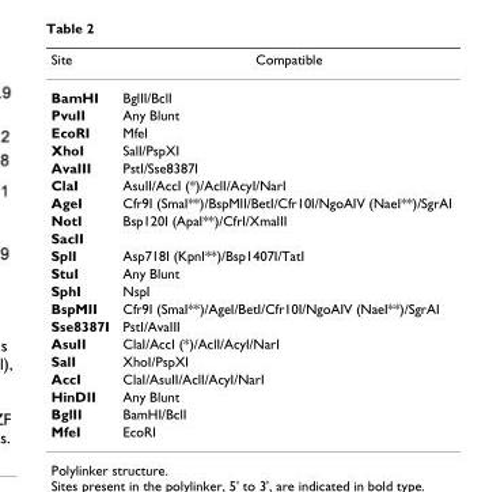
<table><thead><tr><td>Site</td><td>Compatible</td></tr></thead><tbody><tr><td>BamHI</td><td>BglII/BclI</td></tr><tr><td>PvuII</td><td>Any Blunt</td></tr><tr><td>EcoRI</td><td>MfeI</td></tr><tr><td>XhoI</td><td>SalI/PspXI</td></tr><tr><td>AvaIII</td><td>PstI/Sse8387I</td></tr><tr><td>ClaI</td><td>AsuII/AccI (*)/AclI/AcyI/NarI</td></tr><tr><td>AgeI</td><td>Cfr9I (SmaI**)/BspMII/BetI/Cfr10I/NgoAIV (NaeI**)/SgrAI</td></tr><tr><td>NotI</td><td>Bsp120I (ApaI**)/CfrI/XmaIII</td></tr><tr><td colspan="2">SacII</td></tr><tr><td>SplI</td><td>Asp718I (KpnI**)/Bsp1407I/TatI</td></tr><tr><td>StuI</td><td>Any Blunt</td></tr><tr><td>SphI</td><td>NspI</td></tr><tr><td>BspMII</td><td>Cfr9I (SmaI**)/AgeI/BetI/Cfr10I/NgoAIV (NaeI**)/SgrAI</td></tr><tr><td>Sse8387I</td><td>PstI/AvaIII</td></tr><tr><td>AsuII</td><td>ClaI/AccI (*)/AclI/AcyI/NarI</td></tr><tr><td>SalI</td><td>XhoI/PspXI</td></tr><tr><td>AccI</td><td>ClaI/AsuII/AclI/AcyI/NarI</td></tr><tr><td>HinDII</td><td>Any Blunt</td></tr><tr><td>BglII</td><td>BamHI/BclI</td></tr><tr><td>MfeI</td><td>EcoRI</td></tr></tbody></table>